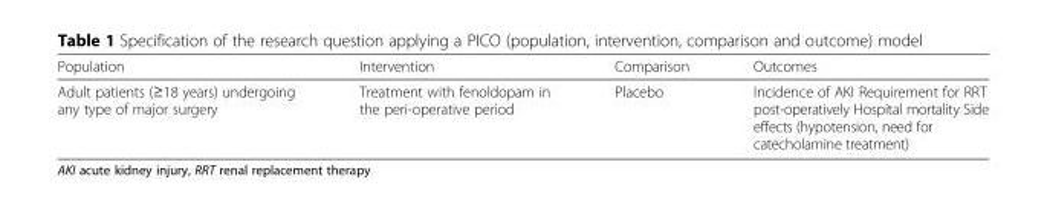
<table><thead><tr><td>Population</td><td>Intervention</td><td>Comparison</td><td>Outcomes</td></tr></thead><tbody><tr><td>Adult patients (≥18 years) undergoing any type of major surgery</td><td>Treatment with fenoldopam in the peri-operative period</td><td>Placebo</td><td>Incidence of AKI Requirement for RRT post-operatively Hospital mortality Side effects (hypotension, need for catecholamine treatment)</td></tr></tbody></table>